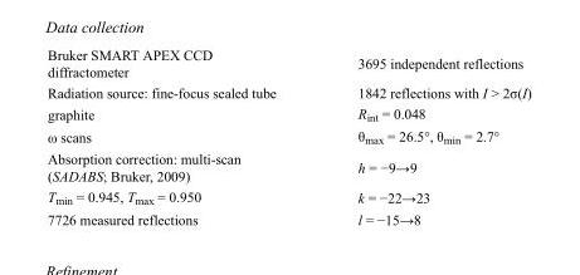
<table><tbody><tr><td>Bruker SMART APEX CCD diffractometer</td><td>3695 independent reflections</td></tr><tr><td>Radiation source: fine-focus sealed tube</td><td>1842 reflections with I &gt; 2σ(I)</td></tr><tr><td>graphite</td><td>R<sub>int</sub> = 0.048</td></tr><tr><td>ω scans</td><td>θ<sub>max</sub> = 26.5°, θ<sub>min</sub> = 2.7°</td></tr><tr><td>Absorption correction: multi-scan (SADABS; Bruker, 2009)</td><td>h = −9→9</td></tr><tr><td>T<sub>min</sub> = 0.945, T<sub>max</sub> = 0.950</td><td>k = −22→23</td></tr><tr><td>7726 measured reflections</td><td>l = −15→8</td></tr></tbody></table>